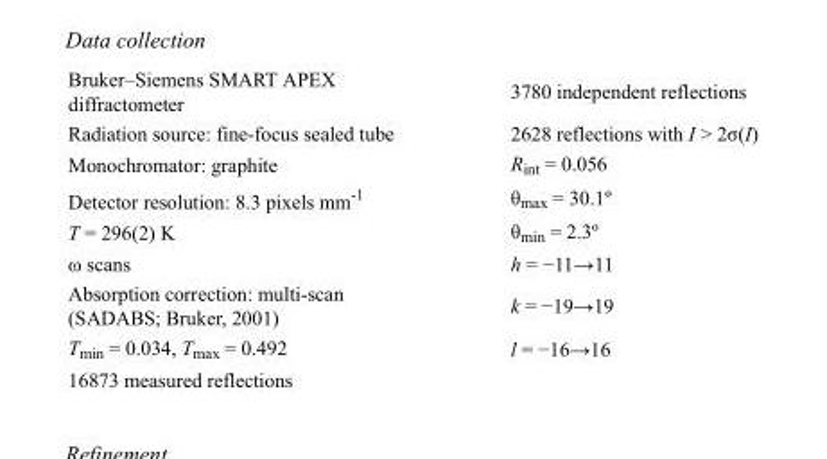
<table><tbody><tr><td>Bruker–Siemens SMART APEX diffractometer</td><td>3780 independent reflections</td></tr><tr><td>Radiation source: fine-focus sealed tube</td><td>2628 reflections with I &gt; 2σ(I)</td></tr><tr><td>Monochromator: graphite</td><td>R<sub>int</sub> = 0.056</td></tr><tr><td>Detector resolution: 8.3 pixels mm<sup>-1</sup></td><td>θ<sub>max</sub> = 30.1º</td></tr><tr><td>T = 296(2) K</td><td>θ<sub>min</sub> = 2.3º</td></tr><tr><td>ω scans</td><td>h = −11→11</td></tr><tr><td>Absorption correction: multi-scan (SADABS; Bruker, 2001)</td><td>k = −19→19</td></tr><tr><td>T<sub>min</sub> = 0.034, T<sub>max</sub> = 0.492</td><td>l = −16→16</td></tr><tr><td>16873 measured reflections</td><td></td></tr></tbody></table>